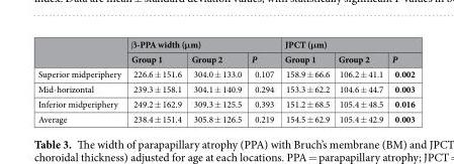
<table><thead><tr><td rowspan="2"></td><td colspan="3">β-PPA width (μm)</td><td colspan="3">JPCT (μm)</td></tr><tr><td>Group 1</td><td>Group 2</td><td>P</td><td>Group 1</td><td>Group 2</td><td>P</td></tr></thead><tbody><tr><td>Superior midperiphery</td><td>226.6 ± 151.6</td><td>304.0 ± 133.0</td><td>0.107</td><td>158.9 ± 66.6</td><td>106.2 ± 41.1</td><td>0.002</td></tr><tr><td>Mid-horizontal</td><td>239.3 ± 158.1</td><td>304.1 ± 140.9</td><td>0.294</td><td>153.3 ± 62.2</td><td>104.6 ± 44.7</td><td>0.003</td></tr><tr><td>Inferior midperiphery</td><td>249.2 ± 162.9</td><td>309.3 ± 125.5</td><td>0.393</td><td>151.2 ± 68.5</td><td>105.4 ± 48.5</td><td>0.016</td></tr><tr><td>Average</td><td>238.4 ± 151.4</td><td>305.8 ± 126.5</td><td>0.219</td><td>154.5 ± 62.9</td><td>105.4 ± 42.9</td><td>0.003</td></tr></tbody></table>